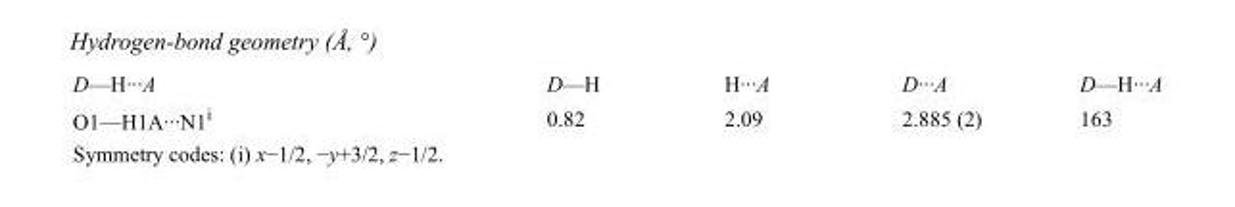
<table><tbody><tr><td>D—H···A</td><td>D—H</td><td>H···A</td><td>D···A</td><td>D—H···A</td></tr><tr><td>O1—H1A···N1<sup>i</sup></td><td>0.82</td><td>2.09</td><td>2.885 (2)</td><td>163</td></tr></tbody></table>